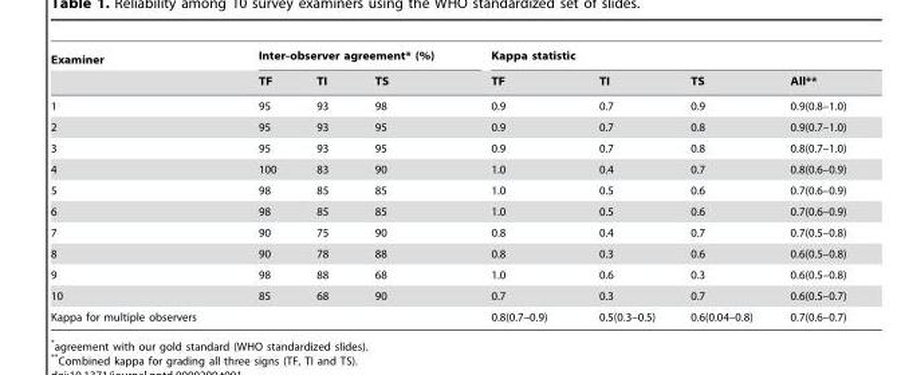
<table><thead><tr><td rowspan="2">Examiner</td><td colspan="3">Inter-observer agreement* (%)</td><td colspan="4">Kappa statistic</td></tr><tr><td>TF</td><td>TI</td><td>TS</td><td>TF</td><td>TI</td><td>TS</td><td>All**</td></tr></thead><tbody><tr><td>1</td><td>95</td><td>93</td><td>98</td><td>0.9</td><td>0.7</td><td>0.9</td><td>0.9(0.8–1.0)</td></tr><tr><td>2</td><td>95</td><td>93</td><td>95</td><td>0.9</td><td>0.7</td><td>0.8</td><td>0.9(0.7–1.0)</td></tr><tr><td>3</td><td>95</td><td>93</td><td>95</td><td>0.9</td><td>0.7</td><td>0.8</td><td>0.8(0.7–1.0)</td></tr><tr><td>4</td><td>100</td><td>83</td><td>90</td><td>1.0</td><td>0.4</td><td>0.7</td><td>0.8(0.6–0.9)</td></tr><tr><td>5</td><td>98</td><td>85</td><td>85</td><td>1.0</td><td>0.5</td><td>0.6</td><td>0.7(0.6–0.9)</td></tr><tr><td>6</td><td>98</td><td>85</td><td>85</td><td>1.0</td><td>0.5</td><td>0.6</td><td>0.7(0.6–0.9)</td></tr><tr><td>7</td><td>90</td><td>75</td><td>90</td><td>0.8</td><td>0.4</td><td>0.7</td><td>0.7(0.5–0.8)</td></tr><tr><td>8</td><td>90</td><td>78</td><td>88</td><td>0.8</td><td>0.3</td><td>0.6</td><td>0.6(0.5–0.8)</td></tr><tr><td>9</td><td>98</td><td>88</td><td>68</td><td>1.0</td><td>0.6</td><td>0.3</td><td>0.6(0.5–0.8)</td></tr><tr><td>10</td><td>85</td><td>68</td><td>90</td><td>0.7</td><td>0.3</td><td>0.7</td><td>0.6(0.5–0.7)</td></tr><tr><td colspan="4">Kappa for multiple observers</td><td>0.8(0.7–0.9)</td><td>0.5(0.3–0.5)</td><td>0.6(0.04–0.8)</td><td>0.7(0.6–0.7)</td></tr></tbody></table>